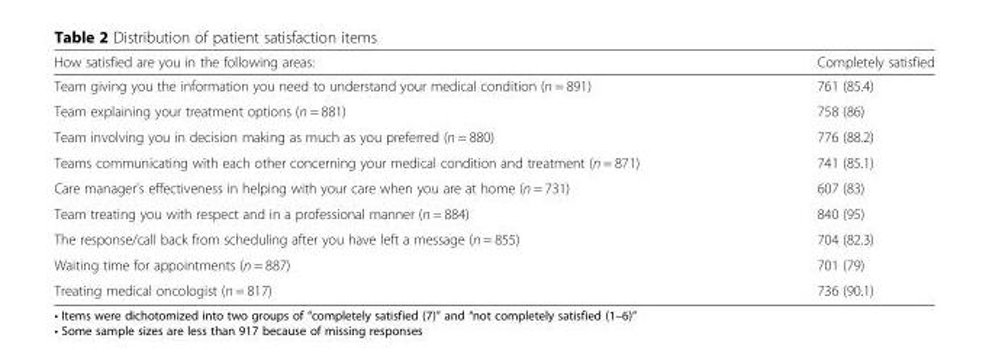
<table><thead><tr><td>How satisfied are you in the following areas:</td><td>Completely satisfied</td></tr></thead><tbody><tr><td>Team giving you the information you need to understand your medical condition (n = 891)</td><td>761 (85.4)</td></tr><tr><td>Team explaining your treatment options (n = 881)</td><td>758 (86)</td></tr><tr><td>Team involving you in decision making as much as you preferred (n = 880)</td><td>776 (88.2)</td></tr><tr><td>Teams communicating with each other concerning your medical condition and treatment (n = 871)</td><td>741 (85.1)</td></tr><tr><td>Care manager’s effectiveness in helping with your care when you are at home (n = 731)</td><td>607 (83)</td></tr><tr><td>Team treating you with respect and in a professional manner (n = 884)</td><td>840 (95)</td></tr><tr><td>The response/call back from scheduling after you have left a message (n = 855)</td><td>704 (82.3)</td></tr><tr><td>Waiting time for appointments (n = 887)</td><td>701 (79)</td></tr><tr><td>Treating medical oncologist (n = 817)</td><td>736 (90.1)</td></tr></tbody></table>